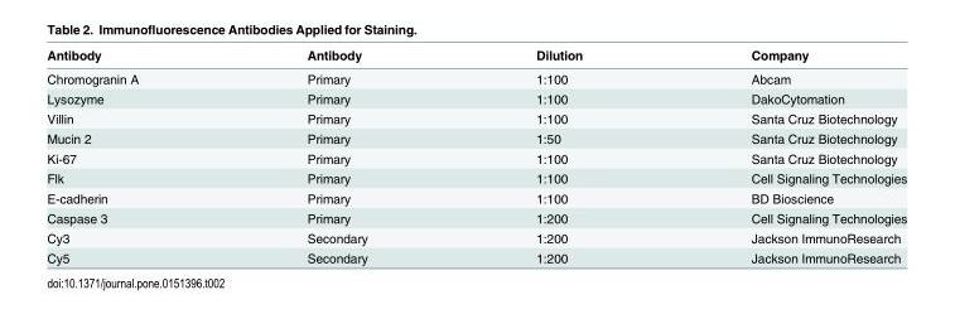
<table><thead><tr><td>Antibody</td><td>Antibody</td><td>Dilution</td><td>Company</td></tr></thead><tbody><tr><td>Chromogranin A</td><td>Primary</td><td>1:100</td><td>Abcam</td></tr><tr><td>Lysozyme</td><td>Primary</td><td>1:100</td><td>DakoCytomation</td></tr><tr><td>Villin</td><td>Primary</td><td>1:100</td><td>Santa Cruz Biotechnology</td></tr><tr><td>Mucin 2</td><td>Primary</td><td>1:50</td><td>Santa Cruz Biotechnology</td></tr><tr><td>Ki-67</td><td>Primary</td><td>1:100</td><td>Santa Cruz Biotechnology</td></tr><tr><td>Flk</td><td>Primary</td><td>1:100</td><td>Cell Signaling Technologies</td></tr><tr><td>E-cadherin</td><td>Primary</td><td>1:100</td><td>BD Bioscience</td></tr><tr><td>Caspase 3</td><td>Primary</td><td>1:200</td><td>Cell Signaling Technologies</td></tr><tr><td>Cy3</td><td>Secondary</td><td>1:200</td><td>Jackson ImmunoResearch</td></tr><tr><td>Cy5</td><td>Secondary</td><td>1:200</td><td>Jackson ImmunoResearch</td></tr></tbody></table>